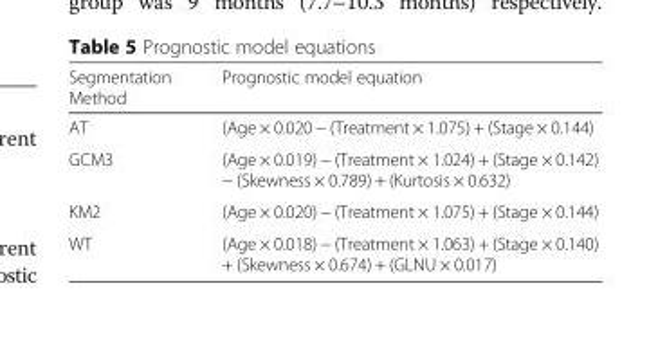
<table><thead><tr><td>Segmentation Method</td><td>Prognostic model equation</td></tr></thead><tbody><tr><td>AT</td><td>(Age × 0.020 − (Treatment × 1.075) + (Stage × 0.144)</td></tr><tr><td>GCM3</td><td>(Age × 0.019) − (Treatment × 1.024) + (Stage × 0.142) − (Skewness × 0.789) + (Kurtosis × 0.632)</td></tr><tr><td>KM2</td><td>(Age × 0.020) − (Treatment × 1.075) + (Stage × 0.144)</td></tr><tr><td>WT</td><td>(Age × 0.018) − (Treatment × 1.063) + (Stage × 0.140) + (Skewness × 0.674) + (GLNU × 0.017)</td></tr></tbody></table>